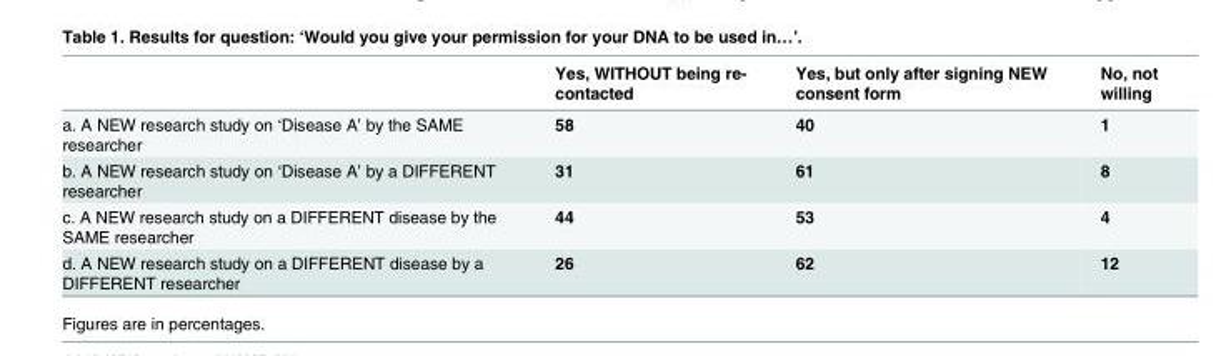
<table><thead><tr><td></td><td>Yes, WITHOUT being re- contacted</td><td>Yes, but only after signing NEW consent form</td><td>No, not willing</td></tr></thead><tbody><tr><td>a. A NEW research study on ‘Disease A’ by the SAME researcher</td><td>58</td><td>40</td><td>1</td></tr><tr><td>b. A NEW research study on ‘Disease A’ by a DIFFERENT researcher</td><td>31</td><td>61</td><td>8</td></tr><tr><td>c. A NEW research study on a DIFFERENT disease by the SAME researcher</td><td>44</td><td>53</td><td>4</td></tr><tr><td>d. A NEW research study on a DIFFERENT disease by a DIFFERENT researcher</td><td>26</td><td>62</td><td>12</td></tr></tbody></table>